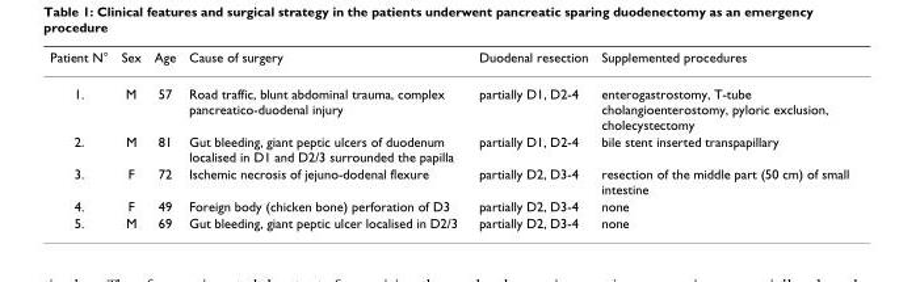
<table><thead><tr><td>Patient N°</td><td>Sex</td><td>Age</td><td>Cause of surgery</td><td>Duodenal resection</td><td>Supplemented procedures</td></tr></thead><tbody><tr><td>1.</td><td>M</td><td>57</td><td>Road traffic, blunt abdominal trauma, complex pancreatico-duodenal injury</td><td>partially D1, D2-4</td><td>enterogastrostomy, T-tube cholangioenterostomy, pyloric exclusion, cholecystectomy</td></tr><tr><td>2.</td><td>M</td><td>81</td><td>Gut bleeding, giant peptic ulcers of duodenum localised in D1 and D2/3 surrounded the papilla</td><td>partially D1, D2-4</td><td>bile stent inserted transpapillary</td></tr><tr><td>3.</td><td>F</td><td>72</td><td>Ischemic necrosis of jejuno-dodenal flexure</td><td>partially D2, D3-4</td><td>resection of the middle part (50 cm) of small intestine</td></tr><tr><td>4.</td><td>F</td><td>49</td><td>Foreign body (chicken bone) perforation of D3</td><td>partially D2, D3-4</td><td>none</td></tr><tr><td>5.</td><td>M</td><td>69</td><td>Gut bleeding, giant peptic ulcer localised in D2/3</td><td>partially D2, D3-4</td><td>none</td></tr></tbody></table>